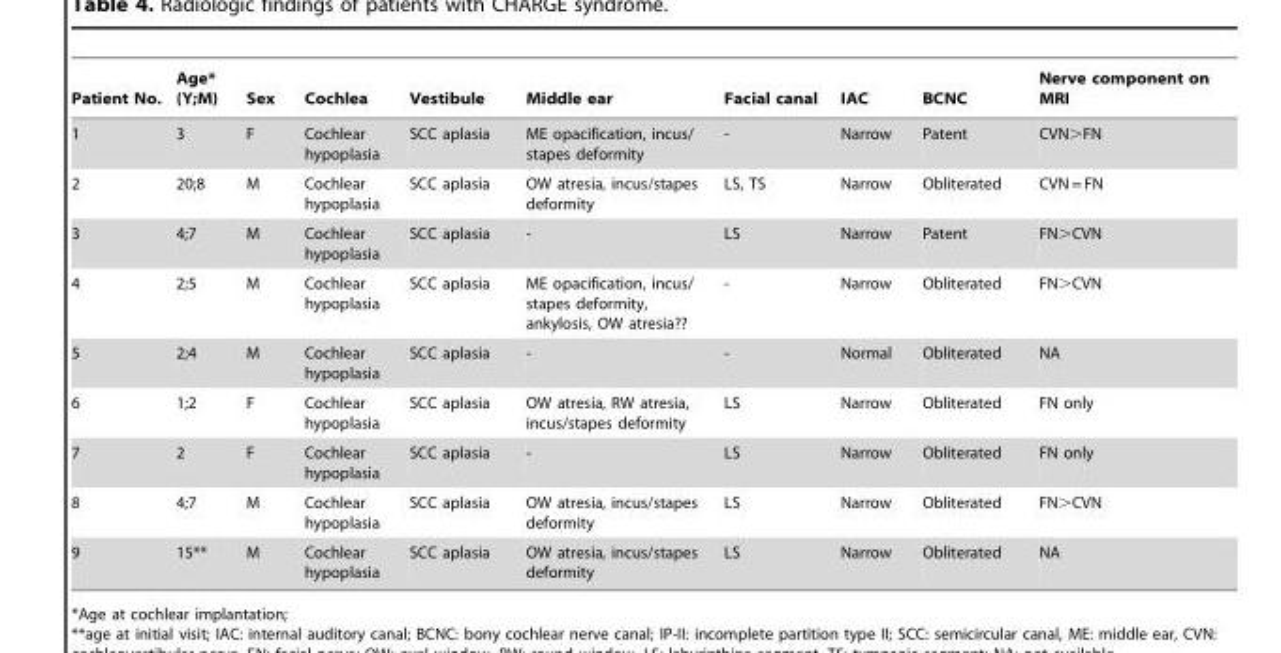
<table><thead><tr><td>Patient No.</td><td>Age* (Y;M)</td><td>Sex</td><td>Cochlea</td><td>Vestibule</td><td>Middle ear</td><td>Facial canal</td><td>IAC</td><td>BCNC</td><td>Nerve component on MRI</td></tr></thead><tbody><tr><td>1</td><td>3</td><td>F</td><td>Cochlear hypoplasia</td><td>SCC aplasia</td><td>ME opacification, incus/ stapes deformity</td><td>-</td><td>Narrow</td><td>Patent</td><td>CVN&gt;FN</td></tr><tr><td>2</td><td>20;8</td><td>M</td><td>Cochlear hypoplasia</td><td>SCC aplasia</td><td>OW atresia, incus/stapes deformity</td><td>LS, TS</td><td>Narrow</td><td>Obliterated</td><td>CVN = FN</td></tr><tr><td>3</td><td>4;7</td><td>M</td><td>Cochlear hypoplasia</td><td>SCC aplasia</td><td>-</td><td>LS</td><td>Narrow</td><td>Patent</td><td>FN&gt;CVN</td></tr><tr><td>4</td><td>2;5</td><td>M</td><td>Cochlear hypoplasia</td><td>SCC aplasia</td><td>ME opacification, incus/ stapes deformity, ankylosis, OW atresia??</td><td>-</td><td>Narrow</td><td>Obliterated</td><td>FN&gt;CVN</td></tr><tr><td>5</td><td>2;4</td><td>M</td><td>Cochlear hypoplasia</td><td>SCC aplasia</td><td>-</td><td>-</td><td>Normal</td><td>Obliterated</td><td>NA</td></tr><tr><td>6</td><td>1;2</td><td>F</td><td>Cochlear hypoplasia</td><td>SCC aplasia</td><td>OW atresia, RW atresia, incus/stapes deformity</td><td>LS</td><td>Narrow</td><td>Obliterated</td><td>FN only</td></tr><tr><td>7</td><td>2</td><td>F</td><td>Cochlear hypoplasia</td><td>SCC aplasia</td><td>-</td><td>LS</td><td>Narrow</td><td>Obliterated</td><td>FN only</td></tr><tr><td>8</td><td>4;7</td><td>M</td><td>Cochlear hypoplasia</td><td>SCC aplasia</td><td>OW atresia, incus/stapes deformity</td><td>LS</td><td>Narrow</td><td>Obliterated</td><td>FN&gt;CVN</td></tr><tr><td>9</td><td>15**</td><td>M</td><td>Cochlear hypoplasia</td><td>SCC aplasia</td><td>OW atresia, incus/stapes deformity</td><td>LS</td><td>Narrow</td><td>Obliterated</td><td>NA</td></tr></tbody></table>